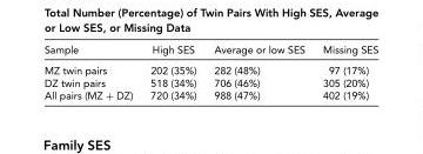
<table><thead><tr><td>Sample</td><td>High SES</td><td>Average or low SES</td><td>Missing SES</td></tr></thead><tbody><tr><td>MZ twin pairs</td><td>202 (35%)</td><td>282 (48%)</td><td>97 (17%)</td></tr><tr><td>DZ twin pairs</td><td>518 (34%)</td><td>706 (46%)</td><td>305 (20%)</td></tr><tr><td>All pairs (MZ + DZ)</td><td>720 (34%)</td><td>988 (47%)</td><td>402 (19%)</td></tr></tbody></table>